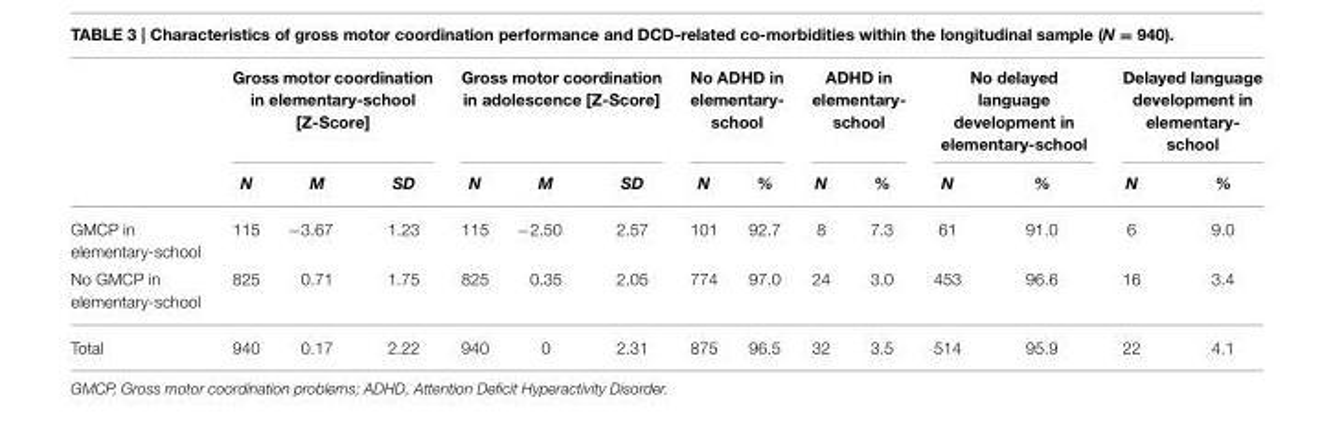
<table><thead><tr><td rowspan="2"></td><td colspan="3">Gross motor coordination in elementary-school [Z-Score]</td><td colspan="3">Gross motor coordination in adolescence [Z-Score]</td><td colspan="2">No ADHD in elementary- school</td><td colspan="2">ADHD in elementary- school</td><td colspan="2">No delayed language development in elementary-school</td><td colspan="2">Delayed language development in elementary- school</td></tr><tr><td>N</td><td>M</td><td>SD</td><td>N</td><td>M</td><td>SD</td><td>N</td><td>%</td><td>N</td><td>%</td><td>N</td><td>%</td><td>N</td><td>%</td></tr></thead><tbody><tr><td>GMCP in elementary-school</td><td>115</td><td>−3.67</td><td>1.23</td><td>115</td><td>−2.50</td><td>2.57</td><td>101</td><td>92.7</td><td>8</td><td>7.3</td><td>61</td><td>91.0</td><td>6</td><td>9.0</td></tr><tr><td>No GMCP in elementary-school</td><td>825</td><td>0.71</td><td>1.75</td><td>825</td><td>0.35</td><td>2.05</td><td>774</td><td>97.0</td><td>24</td><td>3.0</td><td>453</td><td>96.6</td><td>16</td><td>3.4</td></tr><tr><td>Total</td><td>940</td><td>0.17</td><td>2.22</td><td>940</td><td>0</td><td>2.31</td><td>875</td><td>96.5</td><td>32</td><td>3.5</td><td>514</td><td>95.9</td><td>22</td><td>4.1</td></tr></tbody></table>